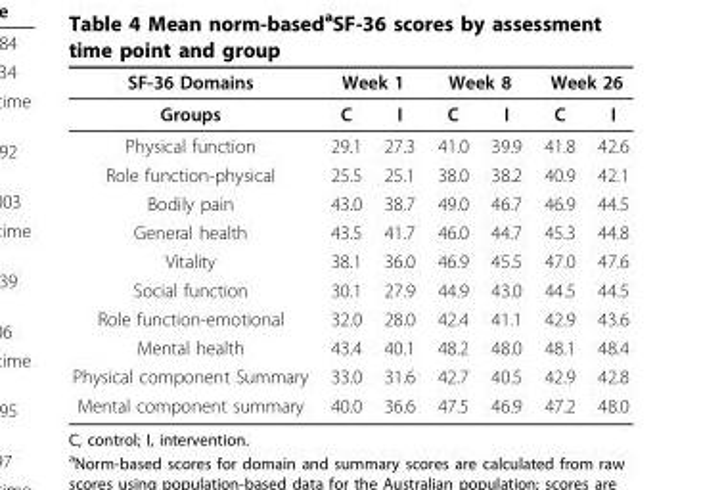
<table><thead><tr><td rowspan="2">SF-36 Domains Groups</td><td colspan="2">Week 1</td><td colspan="2">Week 8</td><td colspan="2">Week 26</td></tr><tr><td>C</td><td>I</td><td>C</td><td>I</td><td>C</td><td>I</td></tr></thead><tbody><tr><td>Physical function</td><td>29.1</td><td>27.3</td><td>41.0</td><td>39.9</td><td>41.8</td><td>42.6</td></tr><tr><td>Role function-physical</td><td>25.5</td><td>25.1</td><td>38.0</td><td>38.2</td><td>40.9</td><td>42.1</td></tr><tr><td>Bodily pain</td><td>43.0</td><td>38.7</td><td>49.0</td><td>46.7</td><td>46.9</td><td>44.5</td></tr><tr><td>General health</td><td>43.5</td><td>41.7</td><td>46.0</td><td>44.7</td><td>45.3</td><td>44.8</td></tr><tr><td>Vitality</td><td>38.1</td><td>36.0</td><td>46.9</td><td>45.5</td><td>47.0</td><td>47.6</td></tr><tr><td>Social function</td><td>30.1</td><td>27.9</td><td>44.9</td><td>43.0</td><td>44.5</td><td>44.5</td></tr><tr><td>Role function-emotional</td><td>32.0</td><td>28.0</td><td>42.4</td><td>41.1</td><td>42.9</td><td>43.6</td></tr><tr><td>Mental health</td><td>43.4</td><td>40.1</td><td>48.2</td><td>48.0</td><td>48.1</td><td>48.4</td></tr><tr><td>Physical component Summary</td><td>33.0</td><td>31.6</td><td>42.7</td><td>40.5</td><td>42.9</td><td>42.8</td></tr><tr><td>Mental component summary</td><td>40.0</td><td>36.6</td><td>47.5</td><td>46.9</td><td>47.2</td><td>48.0</td></tr></tbody></table>